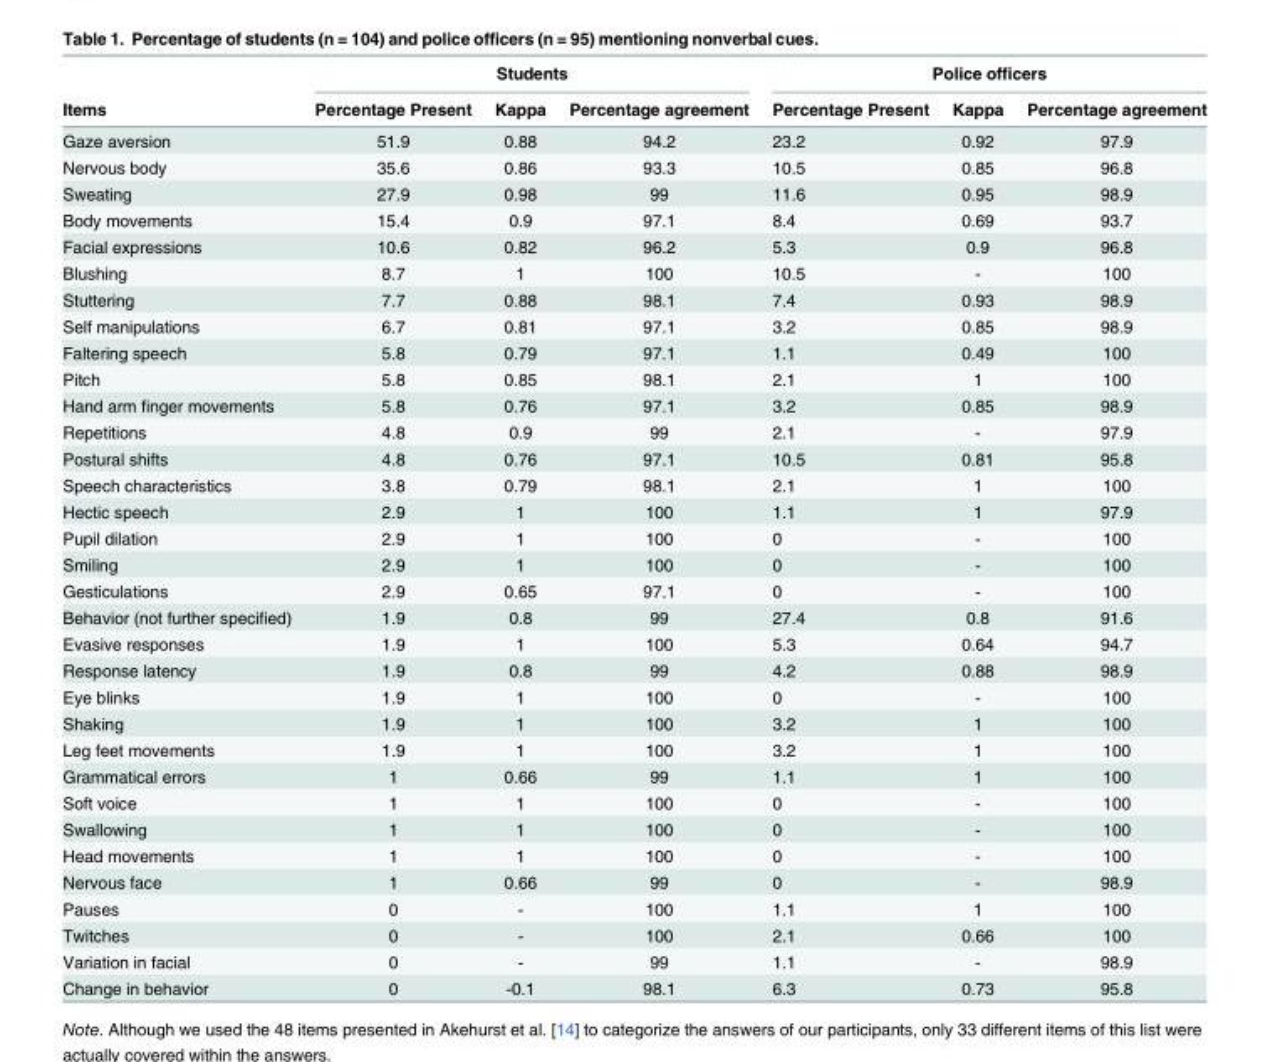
<table><thead><tr><td rowspan="2">Items</td><td colspan="3">Students</td><td colspan="3">Police officers</td></tr><tr><td>Percentage Present</td><td>Kappa</td><td>Percentage agreement</td><td>Percentage Present</td><td>Kappa</td><td>Percentage agreement</td></tr></thead><tbody><tr><td>Gaze aversion</td><td>51.9</td><td>0.88</td><td>94.2</td><td>23.2</td><td>0.92</td><td>97.9</td></tr><tr><td>Nervous body</td><td>35.6</td><td>0.86</td><td>93.3</td><td>10.5</td><td>0.85</td><td>96.8</td></tr><tr><td>Sweating</td><td>27.9</td><td>0.98</td><td>99</td><td>11.6</td><td>0.95</td><td>98.9</td></tr><tr><td>Body movements</td><td>15.4</td><td>0.9</td><td>97.1</td><td>8.4</td><td>0.69</td><td>93.7</td></tr><tr><td>Facial expressions</td><td>10.6</td><td>0.82</td><td>96.2</td><td>5.3</td><td>0.9</td><td>96.8</td></tr><tr><td>Blushing</td><td>8.7</td><td>1</td><td>100</td><td>10.5</td><td>-</td><td>100</td></tr><tr><td>Stuttering</td><td>7.7</td><td>0.88</td><td>98.1</td><td>7.4</td><td>0.93</td><td>98.9</td></tr><tr><td>Self manipulations</td><td>6.7</td><td>0.81</td><td>97.1</td><td>3.2</td><td>0.85</td><td>98.9</td></tr><tr><td>Faltering speech</td><td>5.8</td><td>0.79</td><td>97.1</td><td>1.1</td><td>0.49</td><td>100</td></tr><tr><td>Pitch</td><td>5.8</td><td>0.85</td><td>98.1</td><td>2.1</td><td>1</td><td>100</td></tr><tr><td>Hand arm finger movements</td><td>5.8</td><td>0.76</td><td>97.1</td><td>3.2</td><td>0.85</td><td>98.9</td></tr><tr><td>Repetitions</td><td>4.8</td><td>0.9</td><td>99</td><td>2.1</td><td>-</td><td>97.9</td></tr><tr><td>Postural shifts</td><td>4.8</td><td>0.76</td><td>97.1</td><td>10.5</td><td>0.81</td><td>95.8</td></tr><tr><td>Speech characteristics</td><td>3.8</td><td>0.79</td><td>98.1</td><td>2.1</td><td>1</td><td>100</td></tr><tr><td>Hectic speech</td><td>2.9</td><td>1</td><td>100</td><td>1.1</td><td>1</td><td>97.9</td></tr><tr><td>Pupil dilation</td><td>2.9</td><td>1</td><td>100</td><td>0</td><td>-</td><td>100</td></tr><tr><td>Smiling</td><td>2.9</td><td>1</td><td>100</td><td>0</td><td>-</td><td>100</td></tr><tr><td>Gesticulations</td><td>2.9</td><td>0.65</td><td>97.1</td><td>0</td><td>-</td><td>100</td></tr><tr><td>Behavior (not further specified)</td><td>1.9</td><td>0.8</td><td>99</td><td>27.4</td><td>0.8</td><td>91.6</td></tr><tr><td>Evasive responses</td><td>1.9</td><td>1</td><td>100</td><td>5.3</td><td>0.64</td><td>94.7</td></tr><tr><td>Response latency</td><td>1.9</td><td>0.8</td><td>99</td><td>4.2</td><td>0.88</td><td>98.9</td></tr><tr><td>Eye blinks</td><td>1.9</td><td>1</td><td>100</td><td>0</td><td>-</td><td>100</td></tr><tr><td>Shaking</td><td>1.9</td><td>1</td><td>100</td><td>3.2</td><td>1</td><td>100</td></tr><tr><td>Leg feet movements</td><td>1.9</td><td>1</td><td>100</td><td>3.2</td><td>1</td><td>100</td></tr><tr><td>Grammatical errors</td><td>1</td><td>0.66</td><td>99</td><td>1.1</td><td>1</td><td>100</td></tr><tr><td>Soft voice</td><td>1</td><td>1</td><td>100</td><td>0</td><td>-</td><td>100</td></tr><tr><td>Swallowing</td><td>1</td><td>1</td><td>100</td><td>0</td><td>-</td><td>100</td></tr><tr><td>Head movements</td><td>1</td><td>1</td><td>100</td><td>0</td><td>-</td><td>100</td></tr><tr><td>Nervous face</td><td>1</td><td>0.66</td><td>99</td><td>0</td><td>-</td><td>98.9</td></tr><tr><td>Pauses</td><td>0</td><td>-</td><td>100</td><td>1.1</td><td>1</td><td>100</td></tr><tr><td>Twitches</td><td>0</td><td>-</td><td>100</td><td>2.1</td><td>0.66</td><td>100</td></tr><tr><td>Variation in facial</td><td>0</td><td>-</td><td>99</td><td>1.1</td><td>-</td><td>98.9</td></tr><tr><td>Change in behavior</td><td>0</td><td>-0.1</td><td>98.1</td><td>6.3</td><td>0.73</td><td>95.8</td></tr></tbody></table>